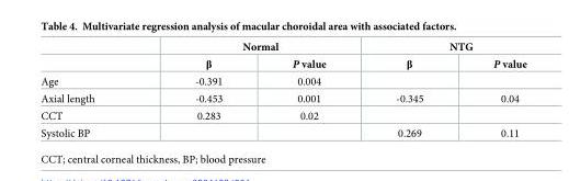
<table><thead><tr><td rowspan="2"></td><td colspan="2">Normal</td><td colspan="2">NTG</td></tr><tr><td>β</td><td>P value</td><td>β</td><td>P value</td></tr></thead><tbody><tr><td>Age</td><td>-0.391</td><td>0.004</td><td></td><td></td></tr><tr><td>Axial length</td><td>-0.453</td><td>0.001</td><td>-0.345</td><td>0.04</td></tr><tr><td>CCT</td><td>0.283</td><td>0.02</td><td></td><td></td></tr><tr><td>Systolic BP</td><td></td><td></td><td>0.269</td><td>0.11</td></tr></tbody></table>